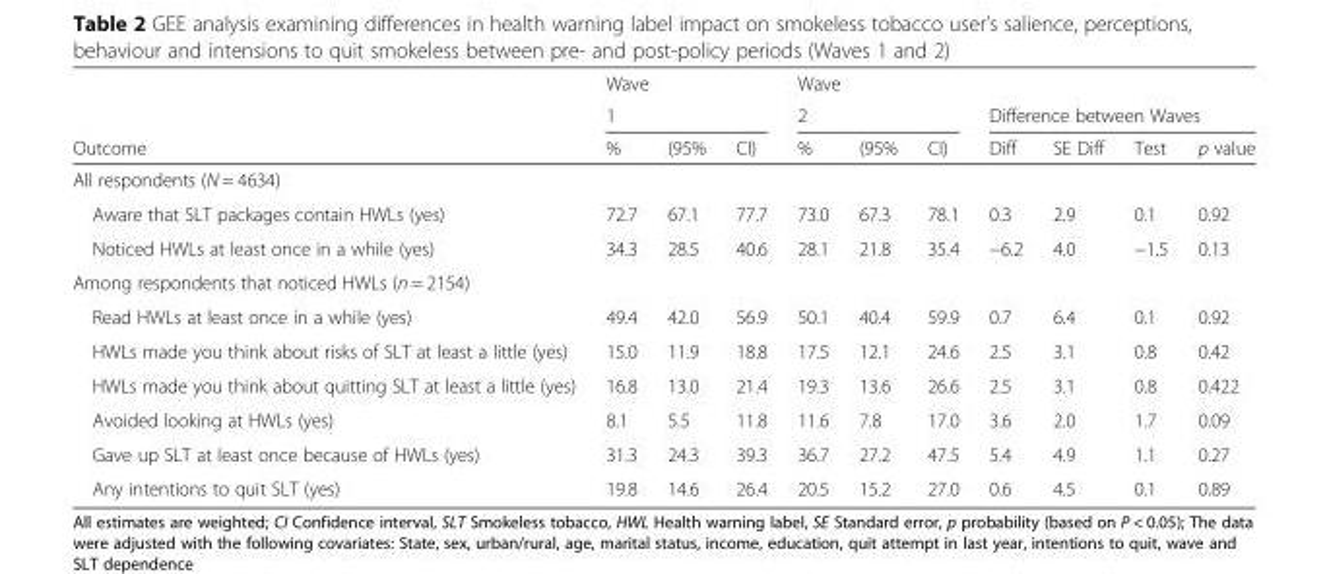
<table><thead><tr><td rowspan="3">Outcome</td><td rowspan="2" colspan="3">Wave 1</td><td rowspan="2" colspan="3">Wave 2</td><td></td><td></td><td></td><td></td></tr><tr><td colspan="4">Difference between Waves</td></tr><tr><td>%</td><td>(95%</td><td>CI)</td><td>%</td><td>(95%</td><td>CI)</td><td>Diff</td><td>SE Diff</td><td>Test</td><td>p value</td></tr></thead><tbody><tr><td colspan="11">All respondents (N = 4634)</td></tr><tr><td>Aware that SLT packages contain HWLs (yes)</td><td>72.7</td><td>67.1</td><td>77.7</td><td>73.0</td><td>67.3</td><td>78.1</td><td>0.3</td><td>2.9</td><td>0.1</td><td>0.92</td></tr><tr><td>Noticed HWLs at least once in a while (yes)</td><td>34.3</td><td>28.5</td><td>40.6</td><td>28.1</td><td>21.8</td><td>35.4</td><td>−6.2</td><td>4.0</td><td>−1.5</td><td>0.13</td></tr><tr><td colspan="11">Among respondents that noticed HWLs (n = 2154)</td></tr><tr><td>Read HWLs at least once in a while (yes)</td><td>49.4</td><td>42.0</td><td>56.9</td><td>50.1</td><td>40.4</td><td>59.9</td><td>0.7</td><td>6.4</td><td>0.1</td><td>0.92</td></tr><tr><td>HWLs made you think about risks of SLT at least a little (yes)</td><td>15.0</td><td>11.9</td><td>18.8</td><td>17.5</td><td>12.1</td><td>24.6</td><td>2.5</td><td>3.1</td><td>0.8</td><td>0.42</td></tr><tr><td>HWLs made you think about quitting SLT at least a little (yes)</td><td>16.8</td><td>13.0</td><td>21.4</td><td>19.3</td><td>13.6</td><td>26.6</td><td>2.5</td><td>3.1</td><td>0.8</td><td>0.422</td></tr><tr><td>Avoided looking at HWLs (yes)</td><td>8.1</td><td>5.5</td><td>11.8</td><td>11.6</td><td>7.8</td><td>17.0</td><td>3.6</td><td>2.0</td><td>1.7</td><td>0.09</td></tr><tr><td>Gave up SLT at least once because of HWLs (yes)</td><td>31.3</td><td>24.3</td><td>39.3</td><td>36.7</td><td>27.2</td><td>47.5</td><td>5.4</td><td>4.9</td><td>1.1</td><td>0.27</td></tr><tr><td>Any intentions to quit SLT (yes)</td><td>19.8</td><td>14.6</td><td>26.4</td><td>20.5</td><td>15.2</td><td>27.0</td><td>0.6</td><td>4.5</td><td>0.1</td><td>0.89</td></tr></tbody></table>